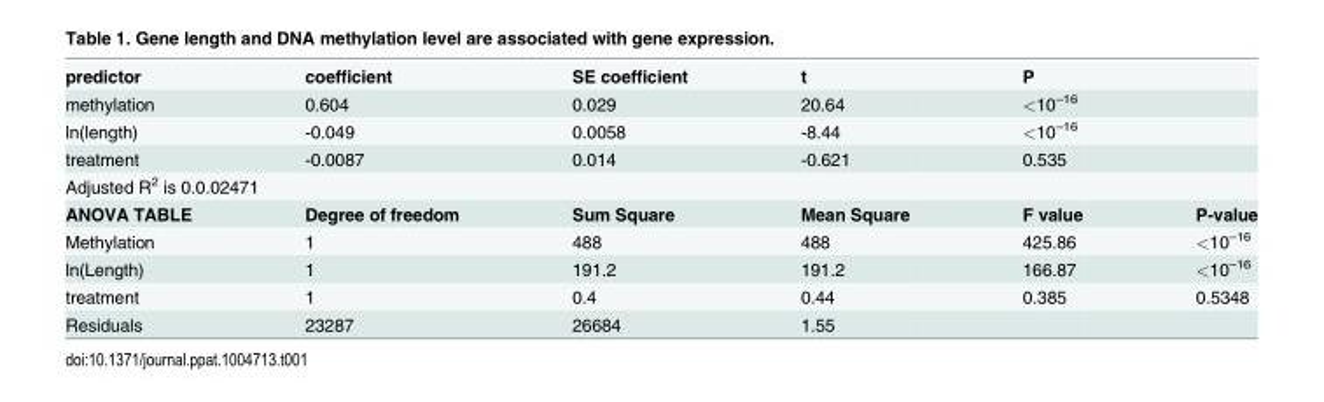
<table><tbody><tr><td>predictor</td><td>coefficient</td><td>SE coefficient</td><td>t</td><td>P</td><td></td></tr><tr><td>methylation</td><td>0.604</td><td>0.029</td><td>20.64</td><td>&lt;10<sup>–16</sup></td><td></td></tr><tr><td>ln(length)</td><td>-0.049</td><td>0.0058</td><td>-8.44</td><td>&lt;10<sup>–16</sup></td><td></td></tr><tr><td>treatment</td><td>-0.0087</td><td>0.014</td><td>-0.621</td><td>0.535</td><td></td></tr><tr><td colspan="6">Adjusted R<sup>2</sup> is 0.0.02471</td></tr><tr><td>ANOVA TABLE</td><td>Degree of freedom</td><td>Sum Square</td><td>Mean Square</td><td>F value</td><td>P-value</td></tr><tr><td>Methylation</td><td>1</td><td>488</td><td>488</td><td>425.86</td><td>&lt;10<sup>–16</sup></td></tr><tr><td>ln(Length)</td><td>1</td><td>191.2</td><td>191.2</td><td>166.87</td><td>&lt;10<sup>–16</sup></td></tr><tr><td>treatment</td><td>1</td><td>0.4</td><td>0.44</td><td>0.385</td><td>0.5348</td></tr><tr><td>Residuals</td><td>23287</td><td>26684</td><td>1.55</td><td></td><td></td></tr></tbody></table>